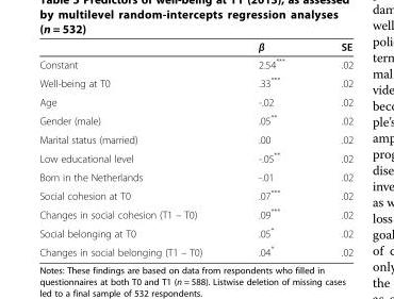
<table><thead><tr><td></td><td>β</td><td>SE</td></tr></thead><tbody><tr><td>Constant</td><td>2.54***</td><td>.02</td></tr><tr><td>Well-being at T0</td><td>.33***</td><td>.02</td></tr><tr><td>Age</td><td>-.02</td><td>.02</td></tr><tr><td>Gender (male)</td><td>.05**</td><td>.02</td></tr><tr><td>Marital status (married)</td><td>.00</td><td>.02</td></tr><tr><td>Low educational level</td><td>-.05**</td><td>.02</td></tr><tr><td>Born in the Netherlands</td><td>-.01</td><td>.02</td></tr><tr><td>Social cohesion at T0</td><td>.07***</td><td>.02</td></tr><tr><td>Changes in social cohesion (T1 – T0)</td><td>.09***</td><td>.02</td></tr><tr><td>Social belonging at T0</td><td>.05*</td><td>.02</td></tr><tr><td>Changes in social belonging (T1 – T0)</td><td>.04*</td><td>.02</td></tr></tbody></table>